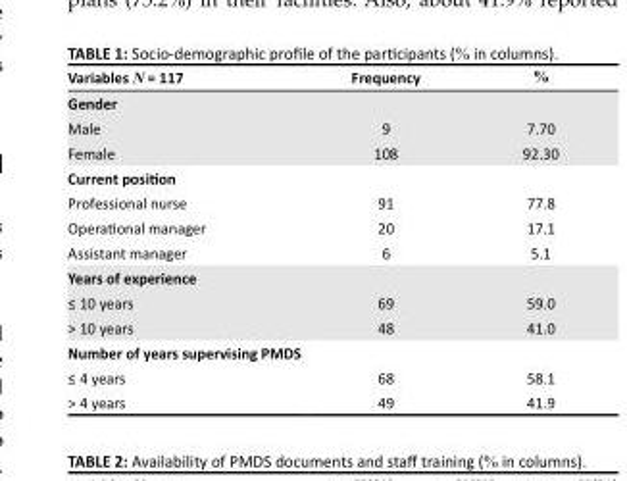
<table><thead><tr><td>Variables N = 117</td><td>Frequency</td><td>%</td></tr></thead><tbody><tr><td colspan="3">Gender</td></tr><tr><td>Male</td><td>9</td><td>7.70</td></tr><tr><td>Female</td><td>108</td><td>92.30</td></tr><tr><td colspan="3">Current position</td></tr><tr><td>Professional nurse</td><td>91</td><td>77.8</td></tr><tr><td>Operational manager</td><td>20</td><td>17.1</td></tr><tr><td>Assistant manager</td><td>6</td><td>5.1</td></tr><tr><td colspan="3">Years of experience</td></tr><tr><td>≤ 10 years</td><td>69</td><td>59.0</td></tr><tr><td>&gt; 10 years</td><td>48</td><td>41.0</td></tr><tr><td colspan="3">Number of years supervising PMDS</td></tr><tr><td>≤ 4 years</td><td>68</td><td>58.1</td></tr><tr><td>&gt; 4 years</td><td>49</td><td>41.9</td></tr></tbody></table>